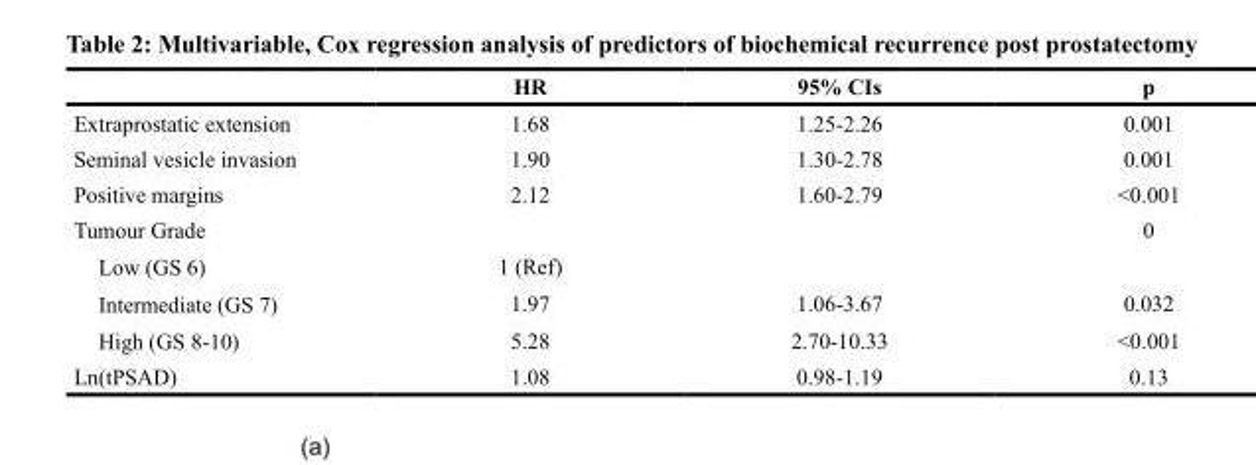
<table><thead><tr><td></td><td>HR</td><td>95% CIs</td><td>p</td></tr></thead><tbody><tr><td>Extraprostatic extension</td><td>1.68</td><td>1.25-2.26</td><td>0.001</td></tr><tr><td>Seminal vesicle invasion</td><td>1.90</td><td>1.30-2.78</td><td>0.001</td></tr><tr><td>Positive margins</td><td>2.12</td><td>1.60-2.79</td><td>&lt;0.001</td></tr><tr><td>Tumour Grade</td><td></td><td></td><td>0</td></tr><tr><td>Low (GS 6)</td><td>1 (Ref)</td><td></td><td></td></tr><tr><td>Intermediate (GS 7)</td><td>1.97</td><td>1.06-3.67</td><td>0.032</td></tr><tr><td>High (GS 8-10)</td><td>5.28</td><td>2.70-10.33</td><td>&lt;0.001</td></tr><tr><td>Ln(tPSAD)</td><td>1.08</td><td>0.98-1.19</td><td>0.13</td></tr></tbody></table>